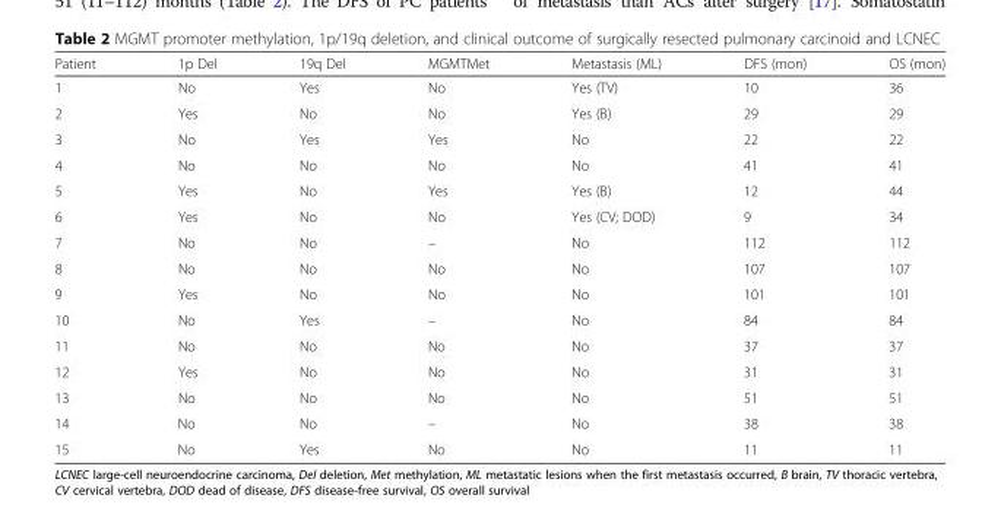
<table><thead><tr><td>Patient</td><td>1p Del</td><td>19q Del</td><td>MGMTMet</td><td>Metastasis (ML)</td><td>DFS (mon)</td><td>OS (mon)</td></tr></thead><tbody><tr><td>1</td><td>No</td><td>Yes</td><td>No</td><td>Yes (TV)</td><td>10</td><td>36</td></tr><tr><td>2</td><td>Yes</td><td>No</td><td>No</td><td>Yes (B)</td><td>29</td><td>29</td></tr><tr><td>3</td><td>No</td><td>Yes</td><td>Yes</td><td>No</td><td>22</td><td>22</td></tr><tr><td>4</td><td>No</td><td>No</td><td>No</td><td>No</td><td>41</td><td>41</td></tr><tr><td>5</td><td>Yes</td><td>No</td><td>Yes</td><td>Yes (B)</td><td>12</td><td>44</td></tr><tr><td>6</td><td>Yes</td><td>No</td><td>No</td><td>Yes (CV; DOD)</td><td>9</td><td>34</td></tr><tr><td>7</td><td>No</td><td>No</td><td>–</td><td>No</td><td>112</td><td>112</td></tr><tr><td>8</td><td>No</td><td>No</td><td>No</td><td>No</td><td>107</td><td>107</td></tr><tr><td>9</td><td>Yes</td><td>No</td><td>No</td><td>No</td><td>101</td><td>101</td></tr><tr><td>10</td><td>No</td><td>Yes</td><td>–</td><td>No</td><td>84</td><td>84</td></tr><tr><td>11</td><td>No</td><td>No</td><td>No</td><td>No</td><td>37</td><td>37</td></tr><tr><td>12</td><td>Yes</td><td>No</td><td>No</td><td>No</td><td>31</td><td>31</td></tr><tr><td>13</td><td>No</td><td>No</td><td>No</td><td>No</td><td>51</td><td>51</td></tr><tr><td>14</td><td>No</td><td>No</td><td>–</td><td>No</td><td>38</td><td>38</td></tr><tr><td>15</td><td>No</td><td>Yes</td><td>No</td><td>No</td><td>11</td><td>11</td></tr></tbody></table>